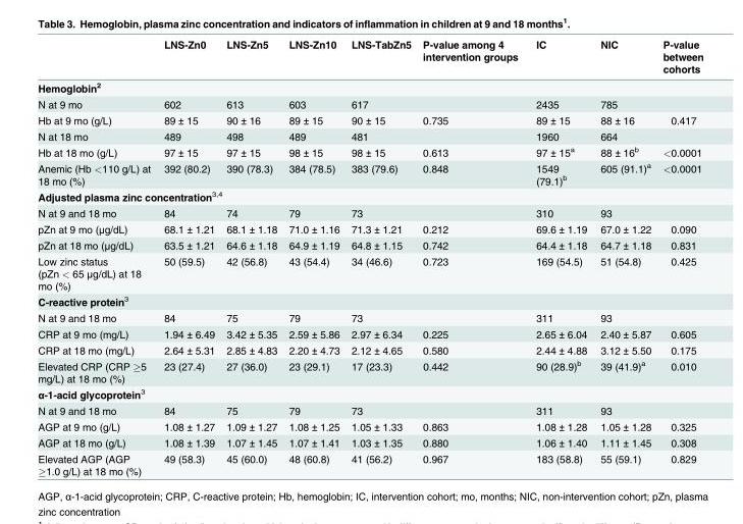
<table><thead><tr><td></td><td>LNS-Zn0</td><td>LNS-Zn5</td><td>LNS-Zn10</td><td>LNS-TabZn5</td><td>P-value among 4 intervention groups</td><td>IC</td><td>NIC</td><td>P-value between cohorts</td></tr></thead><tbody><tr><td colspan="9">Hemoglobin<sup>2</sup></td></tr><tr><td>N at 9 mo</td><td>602</td><td>613</td><td>603</td><td>617</td><td></td><td>2435</td><td>785</td><td></td></tr><tr><td>Hb at 9 mo (g/L)</td><td>89 ± 15</td><td>90 ± 16</td><td>89 ± 15</td><td>90 ± 15</td><td>0.735</td><td>89 ± 15</td><td>88 ± 16</td><td>0.417</td></tr><tr><td>N at 18 mo</td><td>489</td><td>498</td><td>489</td><td>481</td><td></td><td>1960</td><td>664</td><td></td></tr><tr><td>Hb at 18 mo (g/L)</td><td>97 ± 15</td><td>97 ± 15</td><td>98 ± 15</td><td>98 ± 15</td><td>0.613</td><td>97 ± 15<sup>a</sup></td><td>88 ± 16<sup>b</sup></td><td>&lt;0.0001</td></tr><tr><td>Anemic (Hb &lt;110 g/L) at 18 mo (%)</td><td>392 (80.2)</td><td>390 (78.3)</td><td>384 (78.5)</td><td>383 (79.6)</td><td>0.848</td><td>1549 (79.1)<sup>b</sup></td><td>605 (91.1)<sup>a</sup></td><td>&lt;0.0001</td></tr><tr><td colspan="9">Adjusted plasma zinc concentration<sup>3,4</sup></td></tr><tr><td>N at 9 and 18 mo</td><td>84</td><td>74</td><td>79</td><td>73</td><td></td><td>310</td><td>93</td><td></td></tr><tr><td>pZn at 9 mo (μg/dL)</td><td>68.1 ± 1.21</td><td>68.1 ± 1.18</td><td>71.0 ± 1.16</td><td>71.3 ± 1.21</td><td>0.212</td><td>69.6 ± 1.19</td><td>67.0 ± 1.22</td><td>0.090</td></tr><tr><td>pZn at 18 mo (μg/dL)</td><td>63.5 ± 1.21</td><td>64.6 ± 1.18</td><td>64.9 ± 1.19</td><td>64.8 ± 1.15</td><td>0.742</td><td>64.4 ± 1.18</td><td>64.7 ± 1.18</td><td>0.831</td></tr><tr><td>Low zinc status (pZn &lt; 65 μg/dL) at 18 mo (%)</td><td>50 (59.5)</td><td>42 (56.8)</td><td>43 (54.4)</td><td>34 (46.6)</td><td>0.723</td><td>169 (54.5)</td><td>51 (54.8)</td><td>0.425</td></tr><tr><td colspan="9">C-reactive protein<sup>3</sup></td></tr><tr><td>N at 9 and 18 mo</td><td>84</td><td>75</td><td>79</td><td>73</td><td></td><td>311</td><td>93</td><td></td></tr><tr><td>CRP at 9 mo (mg/L)</td><td>1.94 ± 6.49</td><td>3.42 ± 5.35</td><td>2.59 ± 5.86</td><td>2.97 ± 6.34</td><td>0.225</td><td>2.65 ± 6.04</td><td>2.40 ± 5.87</td><td>0.605</td></tr><tr><td>CRP at 18 mo (mg/L)</td><td>2.64 ± 5.31</td><td>2.85 ± 4.83</td><td>2.20 ± 4.73</td><td>2.12 ± 4.65</td><td>0.580</td><td>2.44 ± 4.88</td><td>3.12 ± 5.50</td><td>0.175</td></tr><tr><td>Elevated CRP (CRP ≥5 mg/L) at 18 mo (%)</td><td>23 (27.4)</td><td>27 (36.0)</td><td>23 (29.1)</td><td>17 (23.3)</td><td>0.442</td><td>90 (28.9)<sup>b</sup></td><td>39 (41.9)<sup>a</sup></td><td>0.010</td></tr><tr><td colspan="9">α-1-acid glycoprotein<sup>3</sup></td></tr><tr><td>N at 9 and 18 mo</td><td>84</td><td>75</td><td>79</td><td>73</td><td></td><td>311</td><td>93</td><td></td></tr><tr><td>AGP at 9 mo (g/L)</td><td>1.08 ± 1.27</td><td>1.09 ± 1.27</td><td>1.08 ± 1.25</td><td>1.05 ± 1.33</td><td>0.863</td><td>1.08 ± 1.28</td><td>1.05 ± 1.28</td><td>0.325</td></tr><tr><td>AGP at 18 mo (g/L)</td><td>1.08 ± 1.39</td><td>1.07 ± 1.45</td><td>1.07 ± 1.41</td><td>1.03 ± 1.35</td><td>0.880</td><td>1.06 ± 1.40</td><td>1.11 ± 1.45</td><td>0.308</td></tr><tr><td>Elevated AGP (AGP ≥1.0 g/L) at 18 mo (%)</td><td>49 (58.3)</td><td>45 (60.0)</td><td>48 (60.8)</td><td>41 (56.2)</td><td>0.967</td><td>183 (58.8)</td><td>55 (59.1)</td><td>0.829</td></tr></tbody></table>